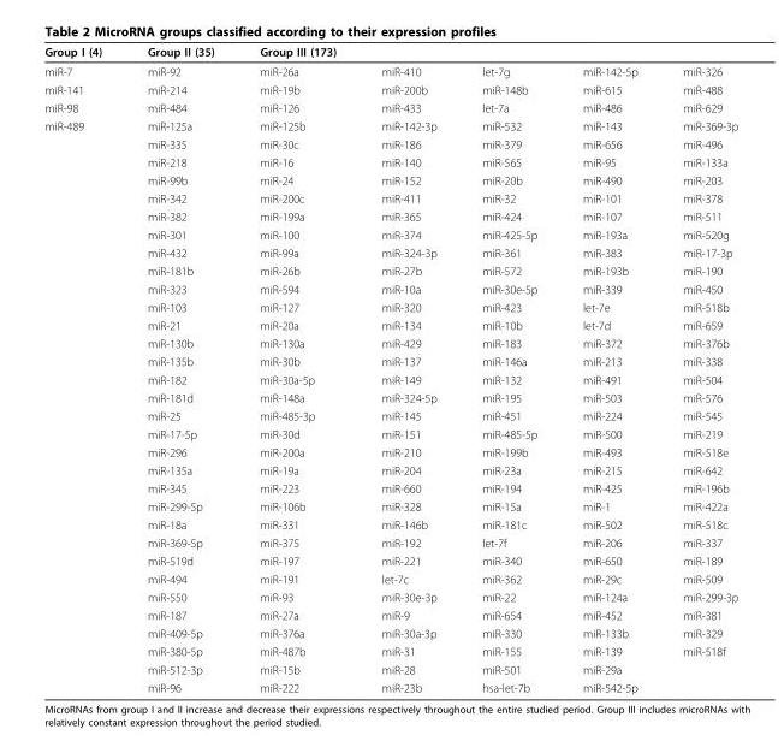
<table><thead><tr><td>Group I (4)</td><td>Group II (35)</td><td>Group III (173)</td><td></td><td></td><td></td><td></td></tr></thead><tbody><tr><td>miR-7</td><td>miR-92</td><td>miR-26a</td><td>miR-410</td><td>let-7g</td><td>miR-142-5p</td><td>miR-326</td></tr><tr><td>miR-141</td><td>miR-214</td><td>miR-19b</td><td>miR-200b</td><td>miR-148b</td><td>miR-615</td><td>miR-488</td></tr><tr><td>miR-98</td><td>miR-484</td><td>miR-126</td><td>miR-433</td><td>let-7a</td><td>miR-486</td><td>miR-629</td></tr><tr><td rowspan="32">miR-489</td><td>miR-125a</td><td>miR-125b</td><td>miR-142-3p</td><td>miR-532</td><td>miR-143</td><td>miR-369-3p</td></tr><tr><td>miR-335</td><td>miR-30c</td><td>miR-186</td><td>miR-379</td><td>miR-656</td><td>miR-496</td></tr><tr><td>miR-218</td><td>miR-16</td><td>miR-140</td><td>miR-565</td><td>miR-95</td><td>miR-133a</td></tr><tr><td>miR-99b</td><td>miR-24</td><td>miR-152</td><td>miR-20b</td><td>miR-490</td><td>miR-203</td></tr><tr><td>miR-342</td><td>miR-200c</td><td>miR-411</td><td>miR-32</td><td>miR-101</td><td>miR-378</td></tr><tr><td>miR-382</td><td>miR-199a</td><td>miR-365</td><td>miR-424</td><td>miR-107</td><td>miR-511</td></tr><tr><td>miR-301</td><td>miR-100</td><td>miR-374</td><td>miR-425-5p</td><td>miR-193a</td><td>miR-520g</td></tr><tr><td>miR-432</td><td>miR-99a</td><td>miR-324-3p</td><td>miR-361</td><td>miR-383</td><td>miR-17-3p</td></tr><tr><td>miR-181b</td><td>miR-26b</td><td>miR-27b</td><td>miR-572</td><td>miR-193b</td><td>miR-190</td></tr><tr><td>miR-323</td><td>miR-594</td><td>miR-10a</td><td>miR-30e-5p</td><td>miR-339</td><td>miR-450</td></tr><tr><td>miR-103</td><td>miR-127</td><td>miR-320</td><td>miR-423</td><td>let-7e</td><td>miR-518b</td></tr><tr><td>miR-21</td><td>miR-20a</td><td>miR-134</td><td>miR-10b</td><td>let-7d</td><td>miR-659</td></tr><tr><td>miR-130b</td><td>miR-130a</td><td>miR-429</td><td>miR-183</td><td>miR-372</td><td>miR-376b</td></tr><tr><td>miR-135b</td><td>miR-30b</td><td>miR-137</td><td>miR-146a</td><td>miR-213</td><td>miR-338</td></tr><tr><td>miR-182</td><td>miR-30a-5p</td><td>miR-149</td><td>miR-132</td><td>miR-491</td><td>miR-504</td></tr><tr><td>miR-181d</td><td>miR-148a</td><td>miR-324-5p</td><td>miR-195</td><td>miR-503</td><td>miR-576</td></tr><tr><td>miR-25</td><td>miR-485-3p</td><td>miR-145</td><td>miR-451</td><td>miR-224</td><td>miR-545</td></tr><tr><td>miR-17-5p</td><td>miR-30d</td><td>miR-151</td><td>miR-485-5p</td><td>miR-500</td><td>miR-219</td></tr><tr><td>miR-296</td><td>miR-200a</td><td>miR-210</td><td>miR-199b</td><td>miR-493</td><td>miR-518e</td></tr><tr><td>miR-135a</td><td>miR-19a</td><td>miR-204</td><td>miR-23a</td><td>miR-215</td><td>miR-642</td></tr><tr><td>miR-345</td><td>miR-223</td><td>miR-660</td><td>miR-194</td><td>miR-425</td><td>miR-196b</td></tr><tr><td>miR-299-5p</td><td>miR-106b</td><td>miR-328</td><td>miR-15a</td><td>miR-1</td><td>miR-422a</td></tr><tr><td>miR-18a</td><td>miR-331</td><td>miR-146b</td><td>miR-181c</td><td>miR-502</td><td>miR-518c</td></tr><tr><td>miR-369-5p</td><td>miR-375</td><td>miR-192</td><td>let-7f</td><td>miR-206</td><td>miR-337</td></tr><tr><td>miR-519d</td><td>miR-197</td><td>miR-221</td><td>miR-340</td><td>miR-650</td><td>miR-189</td></tr><tr><td>miR-494</td><td>miR-191</td><td>let-7c</td><td>miR-362</td><td>miR-29c</td><td>miR-509</td></tr><tr><td>miR-550</td><td>miR-93</td><td>miR-30e-3p</td><td>miR-22</td><td>miR-124a</td><td>miR-299-3p</td></tr><tr><td>miR-187</td><td>miR-27a</td><td>miR-9</td><td>miR-654</td><td>miR-452</td><td>miR-381</td></tr><tr><td>miR-409-5p</td><td>miR-376a</td><td>miR-30a-3p</td><td>miR-330</td><td>miR-133b</td><td>miR-329</td></tr><tr><td>miR-380-5p</td><td>miR-487b</td><td>miR-31</td><td>miR-155</td><td>miR-139</td><td>miR-518f</td></tr><tr><td>miR-512-3p</td><td>miR-15b</td><td>miR-28</td><td>miR-501</td><td>miR-29a</td><td></td></tr><tr><td>miR-96</td><td>miR-222</td><td>miR-23b</td><td>hsa-let-7b</td><td>miR-542-5p</td><td></td></tr></tbody></table>